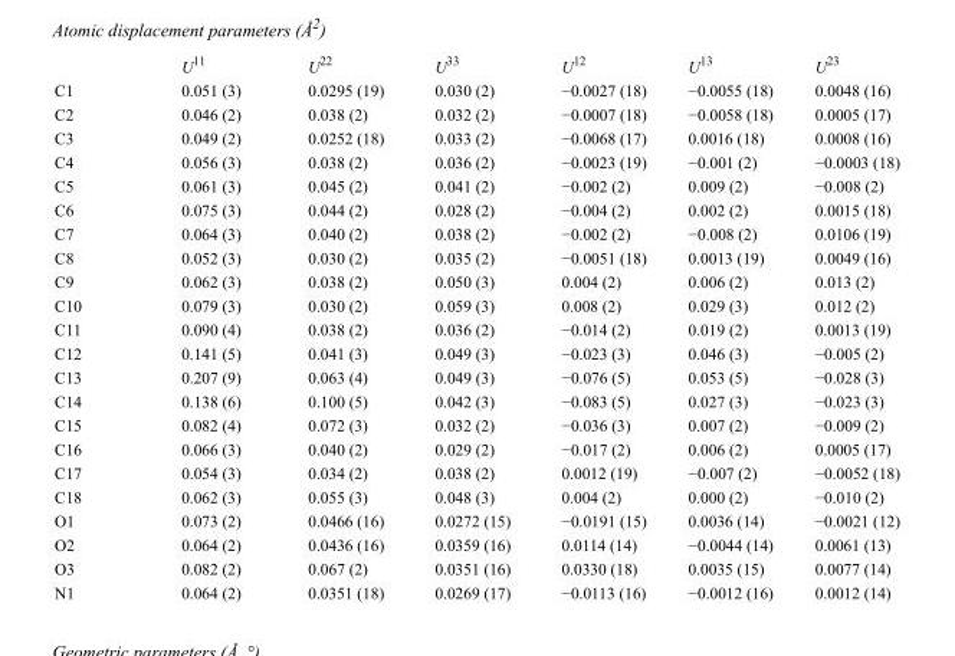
<table><thead><tr><td></td><td>U<sup>11</sup></td><td>U<sup>22</sup></td><td>U<sup>33</sup></td><td>U<sup>12</sup></td><td>U<sup>13</sup></td><td>U<sup>23</sup></td></tr></thead><tbody><tr><td>C1</td><td>0.051 (3)</td><td>0.0295 (19)</td><td>0.030 (2)</td><td>−0.0027 (18)</td><td>−0.0055 (18)</td><td>0.0048 (16)</td></tr><tr><td>C2</td><td>0.046 (2)</td><td>0.038 (2)</td><td>0.032 (2)</td><td>−0.0007 (18)</td><td>−0.0058 (18)</td><td>0.0005 (17)</td></tr><tr><td>C3</td><td>0.049 (2)</td><td>0.0252 (18)</td><td>0.033 (2)</td><td>−0.0068 (17)</td><td>0.0016 (18)</td><td>0.0008 (16)</td></tr><tr><td>C4</td><td>0.056 (3)</td><td>0.038 (2)</td><td>0.036 (2)</td><td>−0.0023 (19)</td><td>−0.001 (2)</td><td>−0.0003 (18)</td></tr><tr><td>C5</td><td>0.061 (3)</td><td>0.045 (2)</td><td>0.041 (2)</td><td>−0.002 (2)</td><td>0.009 (2)</td><td>−0.008 (2)</td></tr><tr><td>C6</td><td>0.075 (3)</td><td>0.044 (2)</td><td>0.028 (2)</td><td>−0.004 (2)</td><td>0.002 (2)</td><td>0.0015 (18)</td></tr><tr><td>C7</td><td>0.064 (3)</td><td>0.040 (2)</td><td>0.038 (2)</td><td>−0.002 (2)</td><td>−0.008 (2)</td><td>0.0106 (19)</td></tr><tr><td>C8</td><td>0.052 (3)</td><td>0.030 (2)</td><td>0.035 (2)</td><td>−0.0051 (18)</td><td>0.0013 (19)</td><td>0.0049 (16)</td></tr><tr><td>C9</td><td>0.062 (3)</td><td>0.038 (2)</td><td>0.050 (3)</td><td>0.004 (2)</td><td>0.006 (2)</td><td>0.013 (2)</td></tr><tr><td>C10</td><td>0.079 (3)</td><td>0.030 (2)</td><td>0.059 (3)</td><td>0.008 (2)</td><td>0.029 (3)</td><td>0.012 (2)</td></tr><tr><td>C11</td><td>0.090 (4)</td><td>0.038 (2)</td><td>0.036 (2)</td><td>−0.014 (2)</td><td>0.019 (2)</td><td>0.0013 (19)</td></tr><tr><td>C12</td><td>0.141 (5)</td><td>0.041 (3)</td><td>0.049 (3)</td><td>−0.023 (3)</td><td>0.046 (3)</td><td>−0.005 (2)</td></tr><tr><td>C13</td><td>0.207 (9)</td><td>0.063 (4)</td><td>0.049 (3)</td><td>−0.076 (5)</td><td>0.053 (5)</td><td>−0.028 (3)</td></tr><tr><td>C14</td><td>0.138 (6)</td><td>0.100 (5)</td><td>0.042 (3)</td><td>−0.083 (5)</td><td>0.027 (3)</td><td>−0.023 (3)</td></tr><tr><td>C15</td><td>0.082 (4)</td><td>0.072 (3)</td><td>0.032 (2)</td><td>−0.036 (3)</td><td>0.007 (2)</td><td>−0.009 (2)</td></tr><tr><td>C16</td><td>0.066 (3)</td><td>0.040 (2)</td><td>0.029 (2)</td><td>−0.017 (2)</td><td>0.006 (2)</td><td>0.0005 (17)</td></tr><tr><td>C17</td><td>0.054 (3)</td><td>0.034 (2)</td><td>0.038 (2)</td><td>0.0012 (19)</td><td>−0.007 (2)</td><td>−0.0052 (18)</td></tr><tr><td>C18</td><td>0.062 (3)</td><td>0.055 (3)</td><td>0.048 (3)</td><td>0.004 (2)</td><td>0.000 (2)</td><td>−0.010 (2)</td></tr><tr><td>O1</td><td>0.073 (2)</td><td>0.0466 (16)</td><td>0.0272 (15)</td><td>−0.0191 (15)</td><td>0.0036 (14)</td><td>−0.0021 (12)</td></tr><tr><td>O2</td><td>0.064 (2)</td><td>0.0436 (16)</td><td>0.0359 (16)</td><td>0.0114 (14)</td><td>−0.0044 (14)</td><td>0.0061 (13)</td></tr><tr><td>O3</td><td>0.082 (2)</td><td>0.067 (2)</td><td>0.0351 (16)</td><td>0.0330 (18)</td><td>0.0035 (15)</td><td>0.0077 (14)</td></tr><tr><td>N1</td><td>0.064 (2)</td><td>0.0351 (18)</td><td>0.0269 (17)</td><td>−0.0113 (16)</td><td>−0.0012 (16)</td><td>0.0012 (14)</td></tr></tbody></table>